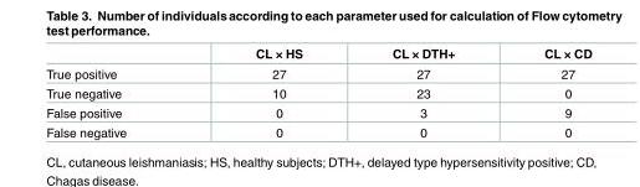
<table><thead><tr><td></td><td>CL × HS</td><td>CL × DTH+</td><td>CL × CD</td></tr></thead><tbody><tr><td>True positive</td><td>27</td><td>27</td><td>27</td></tr><tr><td>True negative</td><td>10</td><td>23</td><td>0</td></tr><tr><td>False positive</td><td>0</td><td>3</td><td>9</td></tr><tr><td>False negative</td><td>0</td><td>0</td><td>0</td></tr></tbody></table>